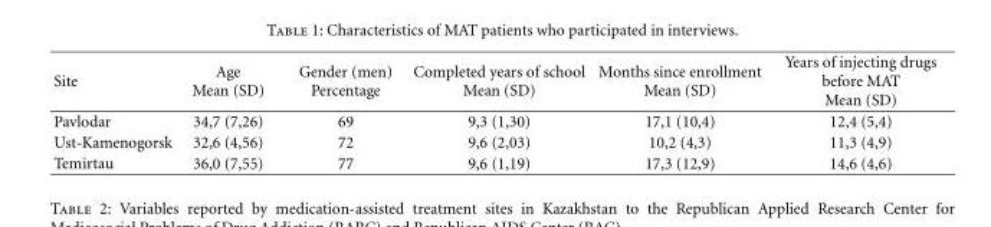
<table><thead><tr><td>Site</td><td>Age Mean (SD)</td><td>Gender (men) Percentage</td><td>Completed years of school Mean (SD)</td><td>Months since enrollment Mean (SD)</td><td>Years of injecting drugs before MAT Mean (SD)</td></tr></thead><tbody><tr><td>Pavlodar</td><td>34,7 (7,26)</td><td>69</td><td>9,3 (1,30)</td><td>17,1 (10,4)</td><td>12,4 (5,4)</td></tr><tr><td>Ust-Kamenogorsk</td><td>32,6 (4,56)</td><td>72</td><td>9,6 (2,03)</td><td>10,2 (4,3)</td><td>11,3 (4,9)</td></tr><tr><td>Temirtau</td><td>36,0 (7,55)</td><td>77</td><td>9,6 (1,19)</td><td>17,3 (12,9)</td><td>14,6 (4,6)</td></tr></tbody></table>